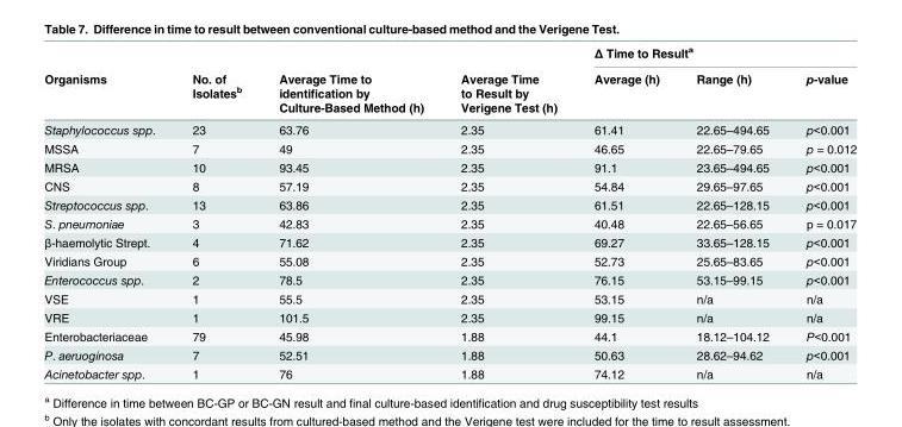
<table><thead><tr><td rowspan="2">Organisms</td><td rowspan="2">No. of Isolates<sup>b</sup></td><td rowspan="2">Average Time to identification by Culture-Based Method (h)</td><td rowspan="2">Average Time to Result by Verigene Test (h)</td><td colspan="3">Δ Time to Result<sup>a</sup></td></tr><tr><td>Average (h)</td><td>Range (h)</td><td>p-value</td></tr></thead><tbody><tr><td>Staphylococcus spp.</td><td>23</td><td>63.76</td><td>2.35</td><td>61.41</td><td>22.65–494.65</td><td>p&lt;0.001</td></tr><tr><td>MSSA</td><td>7</td><td>49</td><td>2.35</td><td>46.65</td><td>22.65–79.65</td><td>p = 0.012</td></tr><tr><td>MRSA</td><td>10</td><td>93.45</td><td>2.35</td><td>91.1</td><td>23.65–494.65</td><td>p&lt;0.001</td></tr><tr><td>CNS</td><td>8</td><td>57.19</td><td>2.35</td><td>54.84</td><td>29.65–97.65</td><td>p&lt;0.001</td></tr><tr><td>Streptococcus spp.</td><td>13</td><td>63.86</td><td>2.35</td><td>61.51</td><td>22.65–128.15</td><td>p&lt;0.001</td></tr><tr><td>S. pneumoniae</td><td>3</td><td>42.83</td><td>2.35</td><td>40.48</td><td>22.65–56.65</td><td>p = 0.017</td></tr><tr><td>β-haemolytic Strept.</td><td>4</td><td>71.62</td><td>2.35</td><td>69.27</td><td>33.65–128.15</td><td>p&lt;0.001</td></tr><tr><td>Viridians Group</td><td>6</td><td>55.08</td><td>2.35</td><td>52.73</td><td>25.65–83.65</td><td>p&lt;0.001</td></tr><tr><td>Enterococcus spp.</td><td>2</td><td>78.5</td><td>2.35</td><td>76.15</td><td>53.15–99.15</td><td>p&lt;0.001</td></tr><tr><td>VSE</td><td>1</td><td>55.5</td><td>2.35</td><td>53.15</td><td>n/a</td><td>n/a</td></tr><tr><td>VRE</td><td>1</td><td>101.5</td><td>2.35</td><td>99.15</td><td>n/a</td><td>n/a</td></tr><tr><td>Enterobacteriaceae</td><td>79</td><td>45.98</td><td>1.88</td><td>44.1</td><td>18.12–104.12</td><td>P&lt;0.001</td></tr><tr><td>P. aeruoginosa</td><td>7</td><td>52.51</td><td>1.88</td><td>50.63</td><td>28.62–94.62</td><td>p&lt;0.001</td></tr><tr><td>Acinetobacter spp.</td><td>1</td><td>76</td><td>1.88</td><td>74.12</td><td>n/a</td><td>n/a</td></tr></tbody></table>